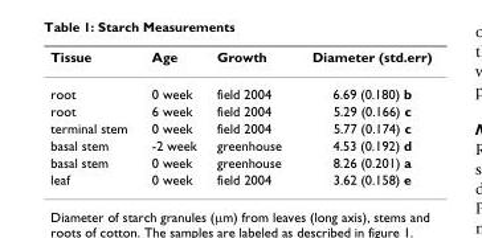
<table><thead><tr><td>Tissue</td><td>Age</td><td>Growth</td><td>Diameter (std.err)</td></tr></thead><tbody><tr><td>root</td><td>0 week</td><td>field 2004</td><td>6.69 (0.180) b</td></tr><tr><td>root</td><td>6 week</td><td>field 2004</td><td>5.29 (0.166) c</td></tr><tr><td>terminal stem</td><td>0 week</td><td>field 2004</td><td>5.77 (0.174) c</td></tr><tr><td>basal stem</td><td>-2 week</td><td>greenhouse</td><td>4.53 (0.192) d</td></tr><tr><td>basal stem</td><td>0 week</td><td>greenhouse</td><td>8.26 (0.201) a</td></tr><tr><td>leaf</td><td>0 week</td><td>field 2004</td><td>3.62 (0.158) e</td></tr></tbody></table>